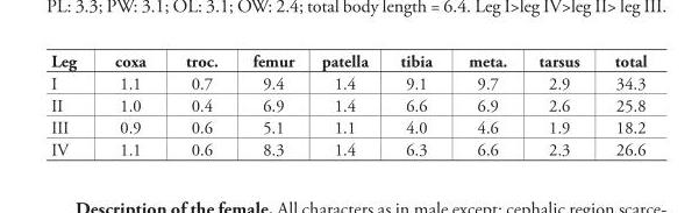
<table><thead><tr><td>Leg</td><td>coxa</td><td>troc.</td><td>femur</td><td>patella</td><td>tibia</td><td>meta.</td><td>tarsus</td><td>total</td></tr></thead><tbody><tr><td>I</td><td>1.1</td><td>0.7</td><td>9.4</td><td>1.4</td><td>9.1</td><td>9.7</td><td>2.9</td><td>34.3</td></tr><tr><td>II</td><td>1.0</td><td>0.4</td><td>6.9</td><td>1.4</td><td>6.6</td><td>6.9</td><td>2.6</td><td>25.8</td></tr><tr><td>III</td><td>0.9</td><td>0.6</td><td>5.1</td><td>1.1</td><td>4.0</td><td>4.6</td><td>1.9</td><td>18.2</td></tr><tr><td>IV</td><td>1.1</td><td>0.6</td><td>8.3</td><td>1.4</td><td>6.3</td><td>6.6</td><td>2.3</td><td>26.6</td></tr></tbody></table>